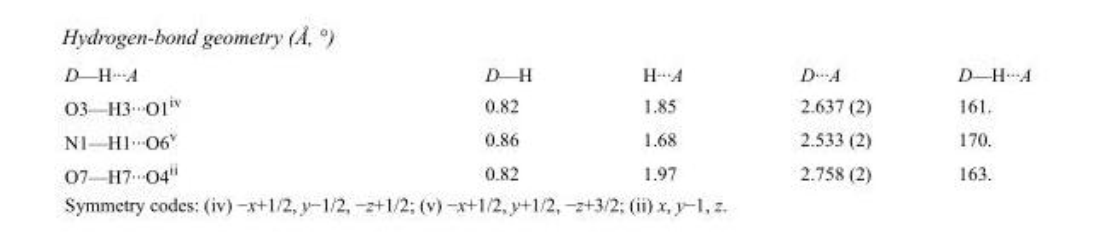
<table><tbody><tr><td>D—H···A</td><td>D—H</td><td>H···A</td><td>D···A</td><td>D—H···A</td></tr><tr><td>O3—H3···O1<sup>iv</sup></td><td>0.82</td><td>1.85</td><td>2.637 (2)</td><td>161.</td></tr><tr><td>N1—H1···O6<sup>v</sup></td><td>0.86</td><td>1.68</td><td>2.533 (2)</td><td>170.</td></tr><tr><td>O7—H7···O4<sup>ii</sup></td><td>0.82</td><td>1.97</td><td>2.758 (2)</td><td>163.</td></tr></tbody></table>